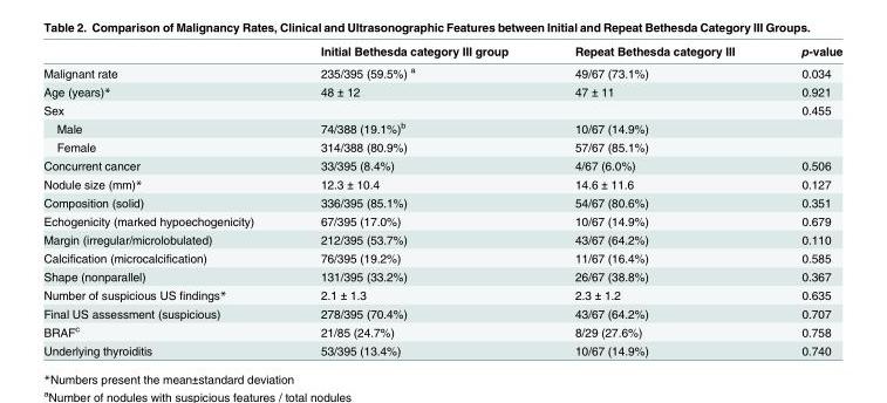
<table><thead><tr><td></td><td>Initial Bethesda category III group</td><td>Repeat Bethesda category III</td><td>p-value</td></tr></thead><tbody><tr><td>Malignant rate</td><td>235/395 (59.5%) <sup>a</sup></td><td>49/67 (73.1%)</td><td>0.034</td></tr><tr><td>Age (years)*</td><td>48 ± 12</td><td>47 ± 11</td><td>0.921</td></tr><tr><td>Sex</td><td></td><td></td><td>0.455</td></tr><tr><td>Male</td><td>74/388 (19.1%)<sup>b</sup></td><td>10/67 (14.9%)</td><td></td></tr><tr><td>Female</td><td>314/388 (80.9%)</td><td>57/67 (85.1%)</td><td></td></tr><tr><td>Concurrent cancer</td><td>33/395 (8.4%)</td><td>4/67 (6.0%)</td><td>0.506</td></tr><tr><td>Nodule size (mm)*</td><td>12.3 ± 10.4</td><td>14.6 ± 11.6</td><td>0.127</td></tr><tr><td>Composition (solid)</td><td>336/395 (85.1%)</td><td>54/67 (80.6%)</td><td>0.351</td></tr><tr><td>Echogenicity (marked hypoechogenicity)</td><td>67/395 (17.0%)</td><td>10/67 (14.9%)</td><td>0.679</td></tr><tr><td>Margin (irregular/microlobulated)</td><td>212/395 (53.7%)</td><td>43/67 (64.2%)</td><td>0.110</td></tr><tr><td>Calcification (microcalcification)</td><td>76/395 (19.2%)</td><td>11/67 (16.4%)</td><td>0.585</td></tr><tr><td>Shape (nonparallel)</td><td>131/395 (33.2%)</td><td>26/67 (38.8%)</td><td>0.367</td></tr><tr><td>Number of suspicious US findings*</td><td>2.1 ± 1.3</td><td>2.3 ± 1.2</td><td>0.635</td></tr><tr><td>Final US assessment (suspicious)</td><td>278/395 (70.4%)</td><td>43/67 (64.2%)</td><td>0.707</td></tr><tr><td>BRAF<sup>c</sup></td><td>21/85 (24.7%)</td><td>8/29 (27.6%)</td><td>0.758</td></tr><tr><td>Underlying thyroiditis</td><td>53/395 (13.4%)</td><td>10/67 (14.9%)</td><td>0.740</td></tr></tbody></table>